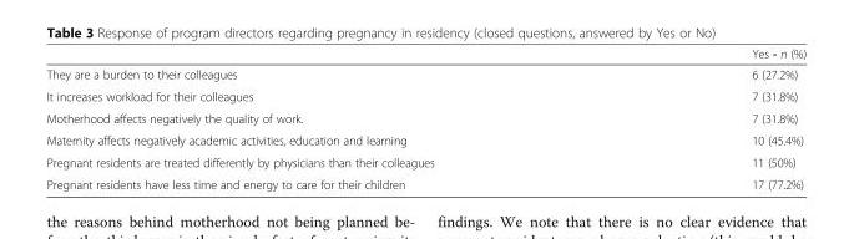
<table><thead><tr><td></td><td>Yes - n (%)</td></tr></thead><tbody><tr><td>They are a burden to their colleagues</td><td>6 (27.2%)</td></tr><tr><td>It increases workload for their colleagues</td><td>7 (31.8%)</td></tr><tr><td>Motherhood affects negatively the quality of work.</td><td>7 (31.8%)</td></tr><tr><td>Maternity affects negatively academic activities, education and learning</td><td>10 (45.4%)</td></tr><tr><td>Pregnant residents are treated differently by physicians than their colleagues</td><td>11 (50%)</td></tr><tr><td>Pregnant residents have less time and energy to care for their children</td><td>17 (77.2%)</td></tr></tbody></table>